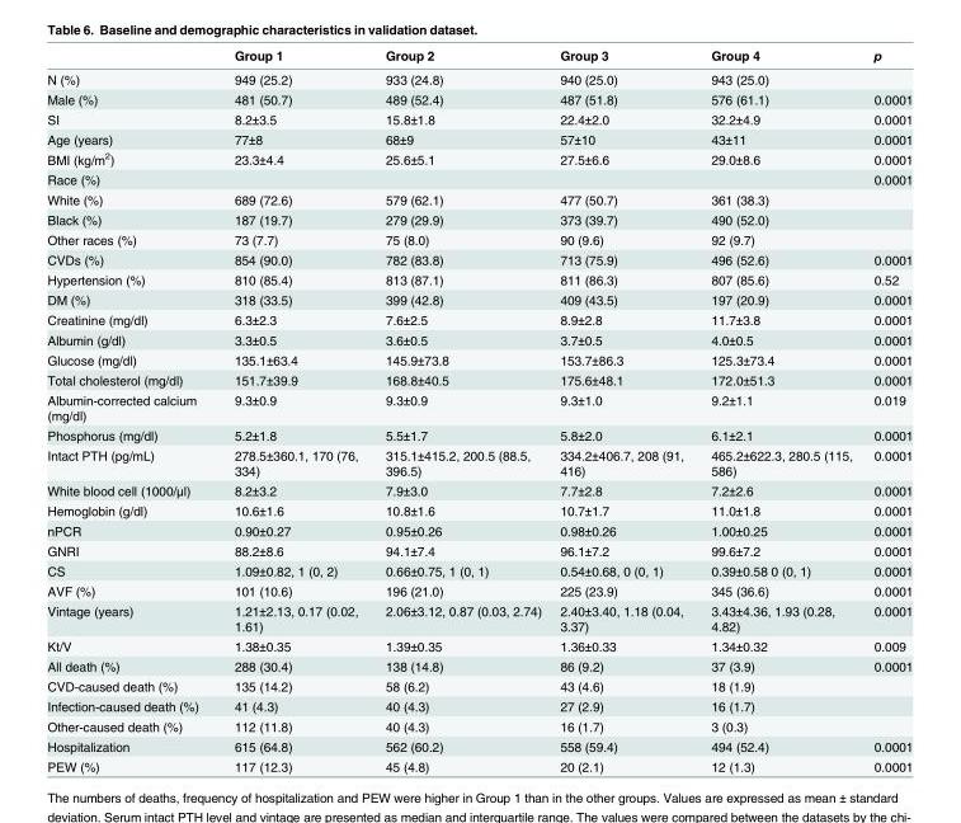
<table><thead><tr><td></td><td>Group 1</td><td>Group 2</td><td>Group 3</td><td>Group 4</td><td>p</td></tr></thead><tbody><tr><td>N (%)</td><td>949 (25.2)</td><td>933 (24.8)</td><td>940 (25.0)</td><td>943 (25.0)</td><td></td></tr><tr><td>Male (%)</td><td>481 (50.7)</td><td>489 (52.4)</td><td>487 (51.8)</td><td>576 (61.1)</td><td>0.0001</td></tr><tr><td>SI</td><td>8.2±3.5</td><td>15.8±1.8</td><td>22.4±2.0</td><td>32.2±4.9</td><td>0.0001</td></tr><tr><td>Age (years)</td><td>77±8</td><td>68±9</td><td>57±10</td><td>43±11</td><td>0.0001</td></tr><tr><td>BMI (kg/m<sup>2</sup>)</td><td>23.3±4.4</td><td>25.6±5.1</td><td>27.5±6.6</td><td>29.0±8.6</td><td>0.0001</td></tr><tr><td>Race (%)</td><td></td><td></td><td></td><td></td><td>0.0001</td></tr><tr><td>White (%)</td><td>689 (72.6)</td><td>579 (62.1)</td><td>477 (50.7)</td><td>361 (38.3)</td><td></td></tr><tr><td>Black (%)</td><td>187 (19.7)</td><td>279 (29.9)</td><td>373 (39.7)</td><td>490 (52.0)</td><td></td></tr><tr><td>Other races (%)</td><td>73 (7.7)</td><td>75 (8.0)</td><td>90 (9.6)</td><td>92 (9.7)</td><td></td></tr><tr><td>CVDs (%)</td><td>854 (90.0)</td><td>782 (83.8)</td><td>713 (75.9)</td><td>496 (52.6)</td><td>0.0001</td></tr><tr><td>Hypertension (%)</td><td>810 (85.4)</td><td>813 (87.1)</td><td>811 (86.3)</td><td>807 (85.6)</td><td>0.52</td></tr><tr><td>DM (%)</td><td>318 (33.5)</td><td>399 (42.8)</td><td>409 (43.5)</td><td>197 (20.9)</td><td>0.0001</td></tr><tr><td>Creatinine (mg/dl)</td><td>6.3±2.3</td><td>7.6±2.5</td><td>8.9±2.8</td><td>11.7±3.8</td><td>0.0001</td></tr><tr><td>Albumin (g/dl)</td><td>3.3±0.5</td><td>3.6±0.5</td><td>3.7±0.5</td><td>4.0±0.5</td><td>0.0001</td></tr><tr><td>Glucose (mg/dl)</td><td>135.1±63.4</td><td>145.9±73.8</td><td>153.7±86.3</td><td>125.3±73.4</td><td>0.0001</td></tr><tr><td>Total cholesterol (mg/dl)</td><td>151.7±39.9</td><td>168.8±40.5</td><td>175.6±48.1</td><td>172.0±51.3</td><td>0.0001</td></tr><tr><td>Albumin-corrected calcium (mg/dl)</td><td>9.3±0.9</td><td>9.3±0.9</td><td>9.3±1.0</td><td>9.2±1.1</td><td>0.019</td></tr><tr><td>Phosphorus (mg/dl)</td><td>5.2±1.8</td><td>5.5±1.7</td><td>5.8±2.0</td><td>6.1±2.1</td><td>0.0001</td></tr><tr><td>Intact PTH (pg/mL)</td><td>278.5±360.1, 170 (76, 334)</td><td>315.1±415.2, 200.5 (88.5, 396.5)</td><td>334.2±406.7, 208 (91, 416)</td><td>465.2±622.3, 280.5 (115, 586)</td><td>0.0001</td></tr><tr><td>White blood cell (1000/μl)</td><td>8.2±3.2</td><td>7.9±3.0</td><td>7.7±2.8</td><td>7.2±2.6</td><td>0.0001</td></tr><tr><td>Hemoglobin (g/dl)</td><td>10.6±1.6</td><td>10.8±1.6</td><td>10.7±1.7</td><td>11.0±1.8</td><td>0.0001</td></tr><tr><td>nPCR</td><td>0.90±0.27</td><td>0.95±0.26</td><td>0.98±0.26</td><td>1.00±0.25</td><td>0.0001</td></tr><tr><td>GNRI</td><td>88.2±8.6</td><td>94.1±7.4</td><td>96.1±7.2</td><td>99.6±7.2</td><td>0.0001</td></tr><tr><td>CS</td><td>1.09±0.82, 1 (0, 2)</td><td>0.66±0.75, 1 (0, 1)</td><td>0.54±0.68, 0 (0, 1)</td><td>0.39±0.58 0 (0, 1)</td><td>0.0001</td></tr><tr><td>AVF (%)</td><td>101 (10.6)</td><td>196 (21.0)</td><td>225 (23.9)</td><td>345 (36.6)</td><td>0.0001</td></tr><tr><td>Vintage (years)</td><td>1.21±2.13, 0.17 (0.02, 1.61)</td><td>2.06±3.12, 0.87 (0.03, 2.74)</td><td>2.40±3.40, 1.18 (0.04, 3.37)</td><td>3.43±4.36, 1.93 (0.28, 4.82)</td><td>0.0001</td></tr><tr><td>Kt/V</td><td>1.38±0.35</td><td>1.39±0.35</td><td>1.36±0.33</td><td>1.34±0.32</td><td>0.009</td></tr><tr><td>All death (%)</td><td>288 (30.4)</td><td>138 (14.8)</td><td>86 (9.2)</td><td>37 (3.9)</td><td>0.0001</td></tr><tr><td>CVD-caused death (%)</td><td>135 (14.2)</td><td>58 (6.2)</td><td>43 (4.6)</td><td>18 (1.9)</td><td></td></tr><tr><td>Infection-caused death (%)</td><td>41 (4.3)</td><td>40 (4.3)</td><td>27 (2.9)</td><td>16 (1.7)</td><td></td></tr><tr><td>Other-caused death (%)</td><td>112 (11.8)</td><td>40 (4.3)</td><td>16 (1.7)</td><td>3 (0.3)</td><td></td></tr><tr><td>Hospitalization</td><td>615 (64.8)</td><td>562 (60.2)</td><td>558 (59.4)</td><td>494 (52.4)</td><td>0.0001</td></tr><tr><td>PEW (%)</td><td>117 (12.3)</td><td>45 (4.8)</td><td>20 (2.1)</td><td>12 (1.3)</td><td>0.0001</td></tr></tbody></table>